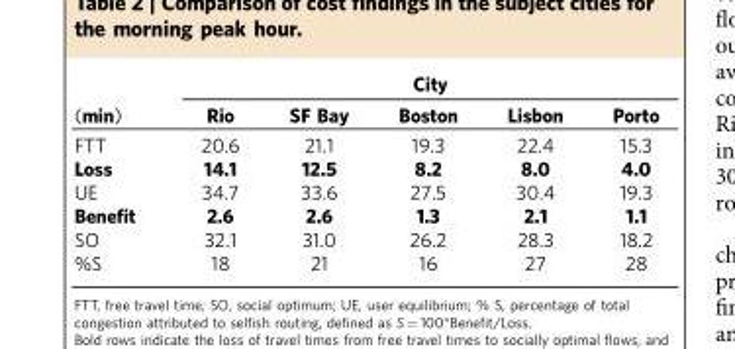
<table><thead><tr><td rowspan="2">(min)</td><td colspan="5">City</td></tr><tr><td>Rio</td><td>SF Bay</td><td>Boston</td><td>Lisbon</td><td>Porto</td></tr></thead><tbody><tr><td>FTT</td><td>20.6</td><td>21.1</td><td>19.3</td><td>22.4</td><td>15.3</td></tr><tr><td>Loss</td><td>14.1</td><td>12.5</td><td>8.2</td><td>8.0</td><td>4.0</td></tr><tr><td>UE</td><td>34.7</td><td>33.6</td><td>27.5</td><td>30.4</td><td>19.3</td></tr><tr><td>Benefit</td><td>2.6</td><td>2.6</td><td>1.3</td><td>2.1</td><td>1.1</td></tr><tr><td>SO</td><td>32.1</td><td>31.0</td><td>26.2</td><td>28.3</td><td>18.2</td></tr><tr><td>%S</td><td>18</td><td>21</td><td>16</td><td>27</td><td>28</td></tr></tbody></table>